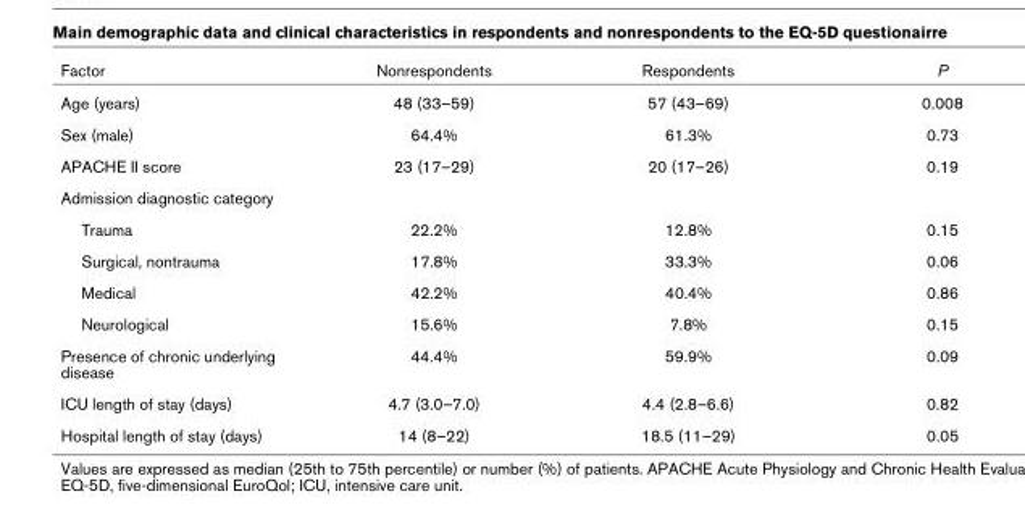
<table><thead><tr><td>Factor</td><td>Nonrespondents</td><td>Respondents</td><td>P</td></tr></thead><tbody><tr><td>Age (years)</td><td>48 (33–59)</td><td>57 (43–69)</td><td>0.008</td></tr><tr><td>Sex (male)</td><td>64.4%</td><td>61.3%</td><td>0.73</td></tr><tr><td>APACHE II score</td><td>23 (17–29)</td><td>20 (17–26)</td><td>0.19</td></tr><tr><td colspan="4">Admission diagnostic category</td></tr><tr><td>Trauma</td><td>22.2%</td><td>12.8%</td><td>0.15</td></tr><tr><td>Surgical, nontrauma</td><td>17.8%</td><td>33.3%</td><td>0.06</td></tr><tr><td>Medical</td><td>42.2%</td><td>40.4%</td><td>0.86</td></tr><tr><td>Neurological</td><td>15.6%</td><td>7.8%</td><td>0.15</td></tr><tr><td>Presence of chronic underlying disease</td><td>44.4%</td><td>59.9%</td><td>0.09</td></tr><tr><td>ICU length of stay (days)</td><td>4.7 (3.0–7.0)</td><td>4.4 (2.8–6.6)</td><td>0.82</td></tr><tr><td>Hospital length of stay (days)</td><td>14 (8–22)</td><td>18.5 (11–29)</td><td>0.05</td></tr></tbody></table>